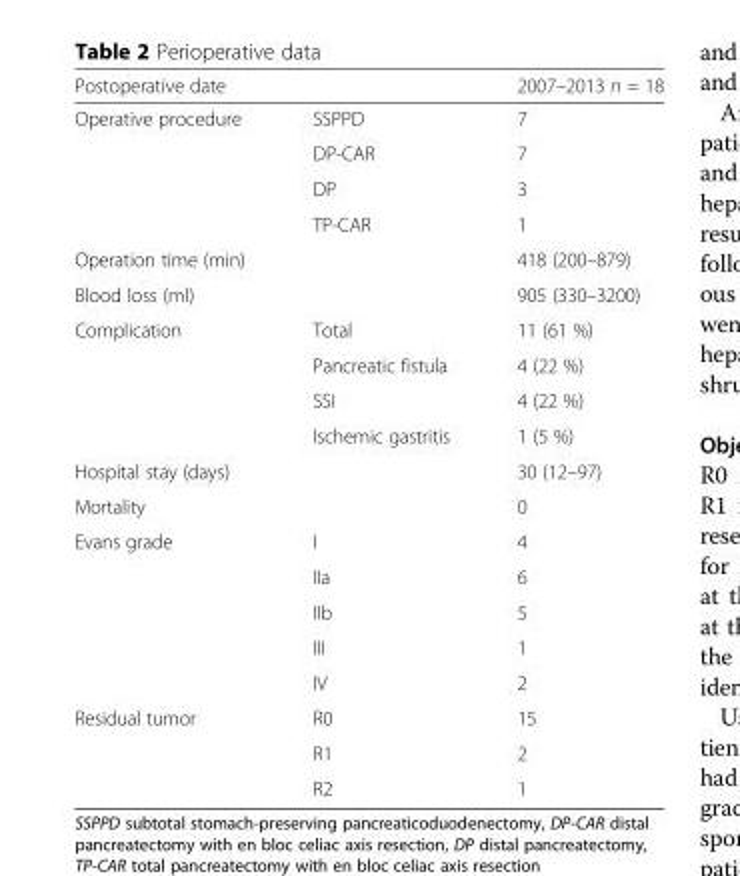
<table><thead><tr><td>Postoperative date</td><td></td><td>2007–2013 n = 18</td></tr></thead><tbody><tr><td rowspan="4">Operative procedure</td><td>SSPPD</td><td>7</td></tr><tr><td>DP-CAR</td><td>7</td></tr><tr><td>DP</td><td>3</td></tr><tr><td>TP-CAR</td><td>1</td></tr><tr><td>Operation time (min)</td><td></td><td>418 (200–879)</td></tr><tr><td>Blood loss (ml)</td><td></td><td>905 (330–3200)</td></tr><tr><td rowspan="4">Complication</td><td>Total</td><td>11 (61 %)</td></tr><tr><td>Pancreatic fistula</td><td>4 (22 %)</td></tr><tr><td>SSI</td><td>4 (22 %)</td></tr><tr><td>Ischemic gastritis</td><td>1 (5 %)</td></tr><tr><td>Hospital stay (days)</td><td></td><td>30 (12–97)</td></tr><tr><td>Mortality</td><td></td><td>0</td></tr><tr><td rowspan="5">Evans grade</td><td>I</td><td>4</td></tr><tr><td>IIa</td><td>6</td></tr><tr><td>IIb</td><td>5</td></tr><tr><td>III</td><td>1</td></tr><tr><td>IV</td><td>2</td></tr><tr><td rowspan="3">Residual tumor</td><td>R0</td><td>15</td></tr><tr><td>R1</td><td>2</td></tr><tr><td>R2</td><td>1</td></tr></tbody></table>